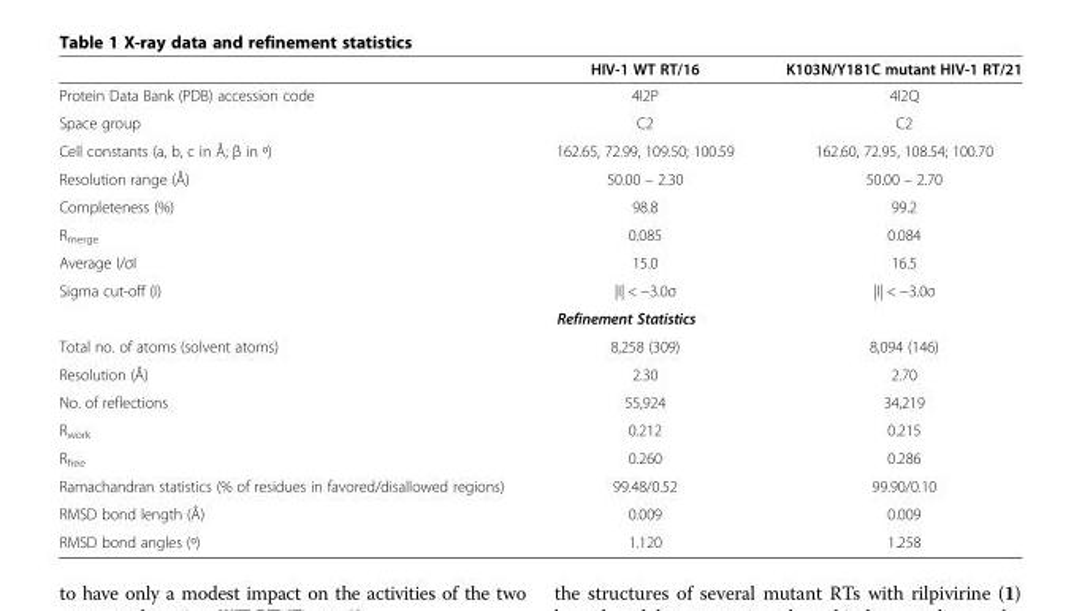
<table><thead><tr><td></td><td>HIV-1 WT RT/16</td><td>K103N/Y181C mutant HIV-1 RT/21</td></tr></thead><tbody><tr><td>Protein Data Bank (PDB) accession code</td><td>4I2P</td><td>4I2Q</td></tr><tr><td>Space group</td><td>C2</td><td>C2</td></tr><tr><td>Cell constants (a, b, c in Å; β in º)</td><td>162.65, 72.99, 109.50; 100.59</td><td>162.60, 72.95, 108.54; 100.70</td></tr><tr><td>Resolution range (Å)</td><td>50.00 – 2.30</td><td>50.00 – 2.70</td></tr><tr><td>Completeness (%)</td><td>98.8</td><td>99.2</td></tr><tr><td>R<sub>merge</sub></td><td>0.085</td><td>0.084</td></tr><tr><td>Average I/σI</td><td>15.0</td><td>16.5</td></tr><tr><td>Sigma cut-off (I)</td><td>|I| &lt; −3.0σ</td><td>|I| &lt; −3.0σ</td></tr><tr><td colspan="3">Refinement Statistics</td></tr><tr><td>Total no. of atoms (solvent atoms)</td><td>8,258 (309)</td><td>8,094 (146)</td></tr><tr><td>Resolution (Å)</td><td>2.30</td><td>2.70</td></tr><tr><td>No. of reflections</td><td>55,924</td><td>34,219</td></tr><tr><td>R<sub>work</sub></td><td>0.212</td><td>0.215</td></tr><tr><td>R<sub>free</sub></td><td>0.260</td><td>0.286</td></tr><tr><td>Ramachandran statistics (% of residues in favored/disallowed regions)</td><td>99.48/0.52</td><td>99.90/0.10</td></tr><tr><td>RMSD bond length (Å)</td><td>0.009</td><td>0.009</td></tr><tr><td>RMSD bond angles (º)</td><td>1.120</td><td>1.258</td></tr></tbody></table>